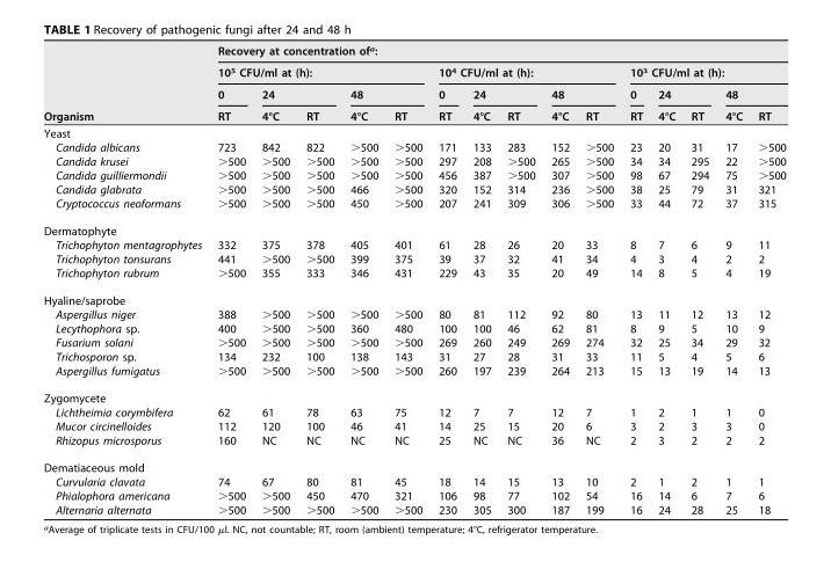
<table><thead><tr><td rowspan="4">Organism</td><td colspan="15">Recovery at concentration of<sup>a</sup>:</td></tr><tr><td colspan="5">10<sup>5</sup> CFU/ml at (h):</td><td colspan="5">10<sup>4</sup> CFU/ml at (h):</td><td colspan="5">10<sup>3</sup> CFU/ml at (h):</td></tr><tr><td rowspan="2">0 RT</td><td colspan="2">24</td><td colspan="2">48</td><td rowspan="2">0 RT</td><td colspan="2">24</td><td colspan="2">48</td><td rowspan="2">0 RT</td><td colspan="2">24</td><td colspan="2">48</td></tr><tr><td>4°C</td><td>RT</td><td>4°C</td><td>RT</td><td>4°C</td><td>RT</td><td>4°C</td><td>RT</td><td>4°C</td><td>RT</td><td>4°C</td><td>RT</td></tr></thead><tbody><tr><td colspan="16">Yeast</td></tr><tr><td>Candida albicans</td><td>723</td><td>842</td><td>822</td><td>&gt;500</td><td>&gt;500</td><td>171</td><td>133</td><td>283</td><td>152</td><td>&gt;500</td><td>23</td><td>20</td><td>31</td><td>17</td><td>&gt;500</td></tr><tr><td>Candida krusei</td><td>&gt;500</td><td>&gt;500</td><td>&gt;500</td><td>&gt;500</td><td>&gt;500</td><td>297</td><td>208</td><td>&gt;500</td><td>265</td><td>&gt;500</td><td>34</td><td>34</td><td>295</td><td>22</td><td>&gt;500</td></tr><tr><td>Candida guilliermondii</td><td>&gt;500</td><td>&gt;500</td><td>&gt;500</td><td>&gt;500</td><td>&gt;500</td><td>456</td><td>387</td><td>&gt;500</td><td>307</td><td>&gt;500</td><td>98</td><td>67</td><td>294</td><td>75</td><td>&gt;500</td></tr><tr><td>Candida glabrata</td><td>&gt;500</td><td>&gt;500</td><td>&gt;500</td><td>466</td><td>&gt;500</td><td>320</td><td>152</td><td>314</td><td>236</td><td>&gt;500</td><td>38</td><td>25</td><td>79</td><td>31</td><td>321</td></tr><tr><td>Cryptococcus neoformans</td><td>&gt;500</td><td>&gt;500</td><td>&gt;500</td><td>450</td><td>&gt;500</td><td>207</td><td>241</td><td>309</td><td>306</td><td>&gt;500</td><td>33</td><td>44</td><td>72</td><td>37</td><td>315</td></tr><tr><td colspan="16">Dermatophyte</td></tr><tr><td>Trichophyton mentagrophytes</td><td>332</td><td>375</td><td>378</td><td>405</td><td>401</td><td>61</td><td>28</td><td>26</td><td>20</td><td>33</td><td>8</td><td>7</td><td>6</td><td>9</td><td>11</td></tr><tr><td>Trichophyton tonsurans</td><td>441</td><td>&gt;500</td><td>&gt;500</td><td>399</td><td>375</td><td>39</td><td>37</td><td>32</td><td>41</td><td>34</td><td>4</td><td>3</td><td>4</td><td>2</td><td>2</td></tr><tr><td>Trichophyton rubrum</td><td>&gt;500</td><td>355</td><td>333</td><td>346</td><td>431</td><td>229</td><td>43</td><td>35</td><td>20</td><td>49</td><td>14</td><td>8</td><td>5</td><td>4</td><td>19</td></tr><tr><td colspan="16">Hyaline/saprobe</td></tr><tr><td>Aspergillus niger</td><td>388</td><td>&gt;500</td><td>&gt;500</td><td>&gt;500</td><td>&gt;500</td><td>80</td><td>81</td><td>112</td><td>92</td><td>80</td><td>13</td><td>11</td><td>12</td><td>13</td><td>12</td></tr><tr><td>Lecythophora sp.</td><td>400</td><td>&gt;500</td><td>&gt;500</td><td>360</td><td>480</td><td>100</td><td>100</td><td>46</td><td>62</td><td>81</td><td>8</td><td>9</td><td>5</td><td>10</td><td>9</td></tr><tr><td>Fusarium solani</td><td>&gt;500</td><td>&gt;500</td><td>&gt;500</td><td>&gt;500</td><td>&gt;500</td><td>269</td><td>260</td><td>249</td><td>269</td><td>274</td><td>32</td><td>25</td><td>34</td><td>29</td><td>32</td></tr><tr><td>Trichosporon sp.</td><td>134</td><td>232</td><td>100</td><td>138</td><td>143</td><td>31</td><td>27</td><td>28</td><td>31</td><td>33</td><td>11</td><td>5</td><td>4</td><td>5</td><td>6</td></tr><tr><td>Aspergillus fumigatus</td><td>&gt;500</td><td>&gt;500</td><td>&gt;500</td><td>&gt;500</td><td>&gt;500</td><td>260</td><td>197</td><td>239</td><td>264</td><td>213</td><td>15</td><td>13</td><td>19</td><td>14</td><td>13</td></tr><tr><td colspan="16">Zygomycete</td></tr><tr><td>Lichtheimia corymbifera</td><td>62</td><td>61</td><td>78</td><td>63</td><td>75</td><td>12</td><td>7</td><td>7</td><td>12</td><td>7</td><td>1</td><td>2</td><td>1</td><td>1</td><td>0</td></tr><tr><td>Mucor circinelloides</td><td>112</td><td>120</td><td>100</td><td>46</td><td>41</td><td>14</td><td>25</td><td>15</td><td>20</td><td>6</td><td>3</td><td>2</td><td>3</td><td>3</td><td>0</td></tr><tr><td>Rhizopus microsporus</td><td>160</td><td>NC</td><td>NC</td><td>NC</td><td>NC</td><td>25</td><td>NC</td><td>NC</td><td>36</td><td>NC</td><td>2</td><td>3</td><td>2</td><td>2</td><td>2</td></tr><tr><td colspan="16">Dematiaceous mold</td></tr><tr><td>Curvularia clavata</td><td>74</td><td>67</td><td>80</td><td>81</td><td>45</td><td>18</td><td>14</td><td>15</td><td>13</td><td>10</td><td>2</td><td>1</td><td>2</td><td>1</td><td>1</td></tr><tr><td>Phialophora americana</td><td>&gt;500</td><td>&gt;500</td><td>450</td><td>470</td><td>321</td><td>106</td><td>98</td><td>77</td><td>102</td><td>54</td><td>16</td><td>14</td><td>6</td><td>7</td><td>6</td></tr><tr><td>Alternaria alternata</td><td>&gt;500</td><td>&gt;500</td><td>&gt;500</td><td>&gt;500</td><td>&gt;500</td><td>230</td><td>305</td><td>300</td><td>187</td><td>199</td><td>16</td><td>24</td><td>28</td><td>25</td><td>18</td></tr></tbody></table>